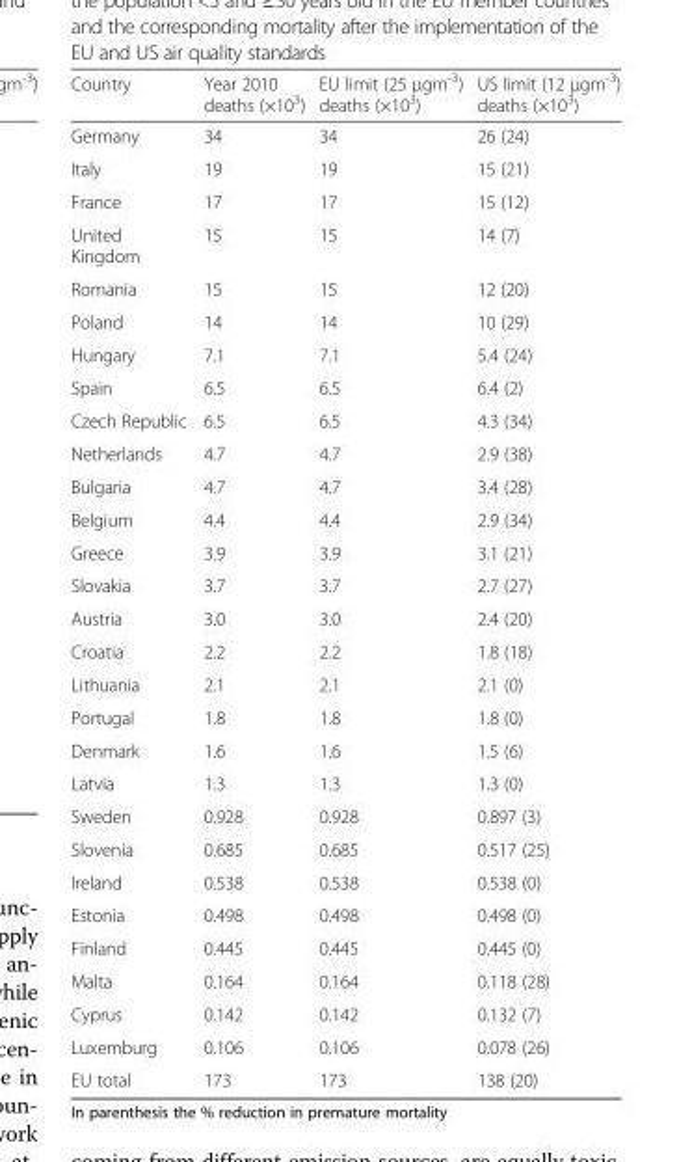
<table><thead><tr><td>Country</td><td>Year 2010 deaths (×10<sup>3</sup>)</td><td>EU limit (25 μgm<sup>-3</sup>) deaths (×10<sup>3</sup>)</td><td>US limit (12 μgm<sup>-3</sup>) deaths (×10<sup>3</sup>)</td></tr></thead><tbody><tr><td>Germany</td><td>34</td><td>34</td><td>26 (24)</td></tr><tr><td>Italy</td><td>19</td><td>19</td><td>15 (21)</td></tr><tr><td>France</td><td>17</td><td>17</td><td>15 (12)</td></tr><tr><td>United Kingdom</td><td>15</td><td>15</td><td>14 (7)</td></tr><tr><td>Romania</td><td>15</td><td>15</td><td>12 (20)</td></tr><tr><td>Poland</td><td>14</td><td>14</td><td>10 (29)</td></tr><tr><td>Hungary</td><td>7.1</td><td>7.1</td><td>5.4 (24)</td></tr><tr><td>Spain</td><td>6.5</td><td>6.5</td><td>6.4 (2)</td></tr><tr><td>Czech Republic</td><td>6.5</td><td>6.5</td><td>4.3 (34)</td></tr><tr><td>Netherlands</td><td>4.7</td><td>4.7</td><td>2.9 (38)</td></tr><tr><td>Bulgaria</td><td>4.7</td><td>4.7</td><td>3.4 (28)</td></tr><tr><td>Belgium</td><td>4.4</td><td>4.4</td><td>2.9 (34)</td></tr><tr><td>Greece</td><td>3.9</td><td>3.9</td><td>3.1 (21)</td></tr><tr><td>Slovakia</td><td>3.7</td><td>3.7</td><td>2.7 (27)</td></tr><tr><td>Austria</td><td>3.0</td><td>3.0</td><td>2.4 (20)</td></tr><tr><td>Croatia</td><td>2.2</td><td>2.2</td><td>1.8 (18)</td></tr><tr><td>Lithuania</td><td>2.1</td><td>2.1</td><td>2.1 (0)</td></tr><tr><td>Portugal</td><td>1.8</td><td>1.8</td><td>1.8 (0)</td></tr><tr><td>Denmark</td><td>1.6</td><td>1.6</td><td>1.5 (6)</td></tr><tr><td>Latvia</td><td>1.3</td><td>1.3</td><td>1.3 (0)</td></tr><tr><td>Sweden</td><td>0.928</td><td>0.928</td><td>0.897 (3)</td></tr><tr><td>Slovenia</td><td>0.685</td><td>0.685</td><td>0.517 (25)</td></tr><tr><td>Ireland</td><td>0.538</td><td>0.538</td><td>0.538 (0)</td></tr><tr><td>Estonia</td><td>0.498</td><td>0.498</td><td>0.498 (0)</td></tr><tr><td>Finland</td><td>0.445</td><td>0.445</td><td>0.445 (0)</td></tr><tr><td>Malta</td><td>0.164</td><td>0.164</td><td>0.118 (28)</td></tr><tr><td>Cyprus</td><td>0.142</td><td>0.142</td><td>0.132 (7)</td></tr><tr><td>Luxemburg</td><td>0.106</td><td>0.106</td><td>0.078 (26)</td></tr><tr><td>EU total</td><td>173</td><td>173</td><td>138 (20)</td></tr></tbody></table>